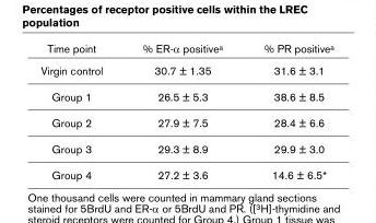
<table><thead><tr><td>Time point</td><td>% ER-α positive<sup>a</sup></td><td>% PR positive<sup>a</sup></td></tr></thead><tbody><tr><td>Virgin control</td><td>30.7 ± 1.35</td><td>31.6 ± 3.1</td></tr><tr><td>Group 1</td><td>26.5 ± 5.3</td><td>38.6 ± 8.5</td></tr><tr><td>Group 2</td><td>27.9 ± 7.5</td><td>28.4 ± 6.6</td></tr><tr><td>Group 3</td><td>29.3 ± 8.9</td><td>29.9 ± 3.0</td></tr><tr><td>Group 4</td><td>27.2 ± 3.6</td><td>14.6 ± 6.5*</td></tr></tbody></table>